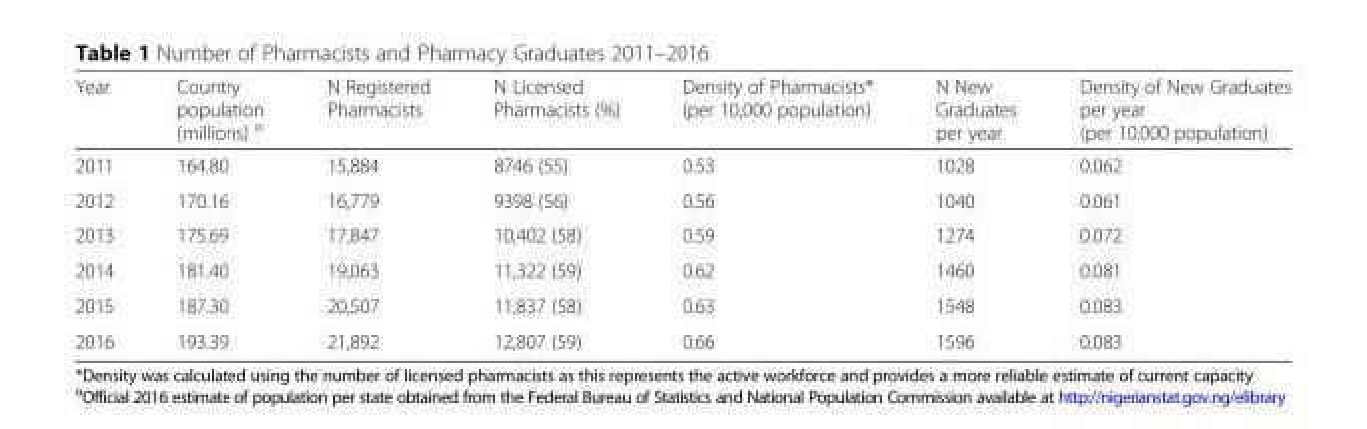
<table><thead><tr><td>Year</td><td>Country population (millions) <sup>α</sup></td><td>N Registered Pharmacists</td><td>N Licensed Pharmacists (%)</td><td>Density of Pharmacists* (per 10,000 population)</td><td>N New Graduates per year</td><td>Density of New Graduates per year (per 10,000 population)</td></tr></thead><tbody><tr><td>2011</td><td>164.80</td><td>15,884</td><td>8746 (55)</td><td>0.53</td><td>1028</td><td>0.062</td></tr><tr><td>2012</td><td>170.16</td><td>16,779</td><td>9398 (56)</td><td>0.56</td><td>1040</td><td>0.061</td></tr><tr><td>2013</td><td>175.69</td><td>17,847</td><td>10,402 (58)</td><td>0.59</td><td>1274</td><td>0.072</td></tr><tr><td>2014</td><td>181.40</td><td>19,063</td><td>11,322 (59)</td><td>0.62</td><td>1460</td><td>0.081</td></tr><tr><td>2015</td><td>187.30</td><td>20,507</td><td>11,837 (58)</td><td>0.63</td><td>1548</td><td>0.083</td></tr><tr><td>2016</td><td>193.39</td><td>21,892</td><td>12,807 (59)</td><td>0.66</td><td>1596</td><td>0.083</td></tr></tbody></table>